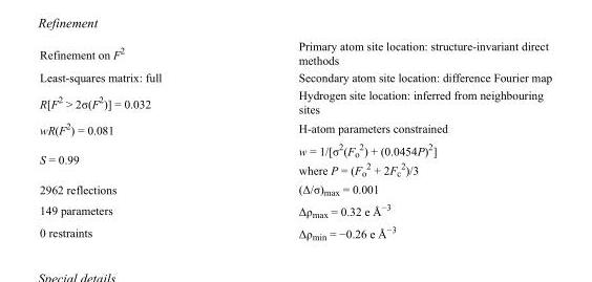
<table><tbody><tr><td>Refinement on F<sup>2</sup></td><td>Primary atom site location: structure-invariant direct methods</td></tr><tr><td>Least-squares matrix: full</td><td>Secondary atom site location: difference Fourier map</td></tr><tr><td>R[F<sup>2</sup> &gt; 2σ(F<sup>2</sup>)] = 0.032</td><td>Hydrogen site location: inferred from neighbouring sites</td></tr><tr><td>wR(F<sup>2</sup>) = 0.081</td><td>H-atom parameters constrained</td></tr><tr><td>S = 0.99</td><td>w = 1/[σ<sup>2</sup>(F<sub>o</sub> <sup>2</sup>) + (0.0454P)<sup>2</sup>] where P = (F<sub>o</sub> <sup>2</sup> + 2F<sub>c</sub> <sup>2</sup>)/3</td></tr><tr><td>2962 reflections</td><td>(Δ/σ)<sub>max</sub> = 0.001</td></tr><tr><td>149 parameters</td><td>Δρ<sub>max</sub> = 0.32 e Å<sup>−3</sup></td></tr><tr><td>0 restraints</td><td>Δρ<sub>min</sub> = −0.26 e Å<sup>−3</sup></td></tr></tbody></table>